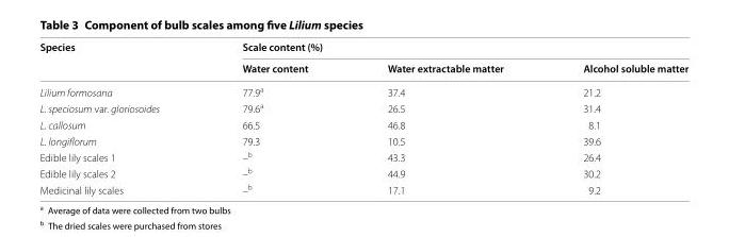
<table><thead><tr><td rowspan="2">Species</td><td colspan="3">Scale content (%)</td></tr><tr><td>Water content</td><td>Water extractable matter</td><td>Alcohol soluble matter</td></tr></thead><tbody><tr><td>Lilium formosana</td><td>77.9<sup>a</sup></td><td>37.4</td><td>21.2</td></tr><tr><td>L. speciosum var. gloriosoides</td><td>79.6<sup>a</sup></td><td>26.5</td><td>31.4</td></tr><tr><td>L. callosum</td><td>66.5</td><td>46.8</td><td>8.1</td></tr><tr><td>L. longiflorum</td><td>79.3</td><td>10.5</td><td>39.6</td></tr><tr><td>Edible lily scales 1</td><td>–<sup>b</sup></td><td>43.3</td><td>26.4</td></tr><tr><td>Edible lily scales 2</td><td>–<sup>b</sup></td><td>44.9</td><td>30.2</td></tr><tr><td>Medicinal lily scales</td><td>–<sup>b</sup></td><td>17.1</td><td>9.2</td></tr></tbody></table>